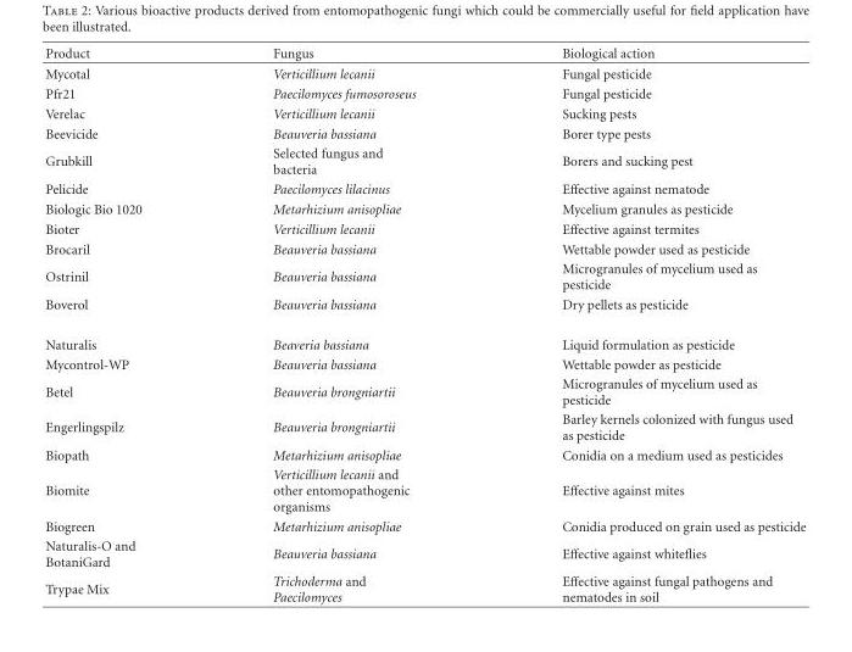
<table><thead><tr><td>Product</td><td>Fungus</td><td>Biological action</td></tr></thead><tbody><tr><td>Mycotal</td><td>Verticillium lecanii</td><td>Fungal pesticide</td></tr><tr><td>Pfr21</td><td>Paecilomyces fumosoroseus</td><td>Fungal pesticide</td></tr><tr><td>Verelac</td><td>Verticillium lecanii</td><td>Sucking pests</td></tr><tr><td>Beevicide</td><td>Beauveria bassiana</td><td>Borer type pests</td></tr><tr><td>Grubkill</td><td>Selected fungus and bacteria</td><td>Borers and sucking pest</td></tr><tr><td>Pelicide</td><td>Paecilomyces lilacinus</td><td>Effective against nematode</td></tr><tr><td>Biologic Bio 1020</td><td>Metarhizium anisopliae</td><td>Mycelium granules as pesticide</td></tr><tr><td>Bioter</td><td>Verticillium lecanii</td><td>Effective against termites</td></tr><tr><td>Brocaril</td><td>Beauveria bassiana</td><td>Wettable powder used as pesticide</td></tr><tr><td>Ostrinil</td><td>Beauveria bassiana</td><td>Microgranules of mycelium used as pesticide</td></tr><tr><td>Boverol</td><td>Beauveria bassiana</td><td>Dry pellets as pesticide</td></tr><tr><td>Naturalis</td><td>Beaveria bassiana</td><td>Liquid formulation as pesticide</td></tr><tr><td>Mycontrol-WP</td><td>Beauveria bassiana</td><td>Wettable powder as pesticide</td></tr><tr><td>Betel</td><td>Beauveria brongniartii</td><td>Microgranules of mycelium used as pesticide</td></tr><tr><td>Engerlingspilz</td><td>Beauveria brongniartii</td><td>Barley kernels colonized with fungus used as pesticide</td></tr><tr><td>Biopath</td><td>Metarhizium anisopliae</td><td>Conidia on a medium used as pesticides</td></tr><tr><td>Biomite</td><td>Verticillium lecanii and other entomopathogenic organisms</td><td>Effective against mites</td></tr><tr><td>Biogreen</td><td>Metarhizium anisopliae</td><td>Conidia produced on grain used as pesticide</td></tr><tr><td>Naturalis-O and BotaniGard</td><td>Beauveria bassiana</td><td>Effective against whiteflies</td></tr><tr><td>Trypae Mix</td><td>Trichoderma and Paecilomyces</td><td>Effective against fungal pathogens and nematodes in soil</td></tr></tbody></table>